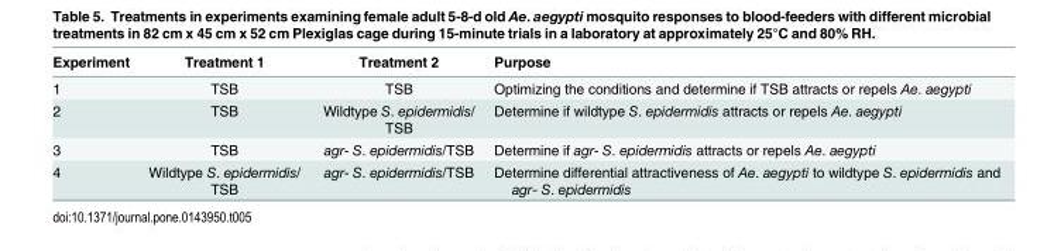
<table><thead><tr><td>Experiment</td><td>Treatment 1</td><td>Treatment 2</td><td>Purpose</td></tr></thead><tbody><tr><td>1</td><td>TSB</td><td>TSB</td><td>Optimizing the conditions and determine if TSB attracts or repels Ae. aegypti</td></tr><tr><td>2</td><td>TSB</td><td>Wildtype S. epidermidis/ TSB</td><td>Determine if wildtype S. epidermidis attracts or repels Ae. aegypti</td></tr><tr><td>3</td><td>TSB</td><td>agr- S. epidermidis/TSB</td><td>Determine if agr- S. epidermidis attracts or repels Ae. aegypti</td></tr><tr><td>4</td><td>Wildtype S. epidermidis/ TSB</td><td>agr- S. epidermidis/TSB</td><td>Determine differential attractiveness of Ae. aegypti to wildtype S. epidermidis and agr- S. epidermidis</td></tr></tbody></table>